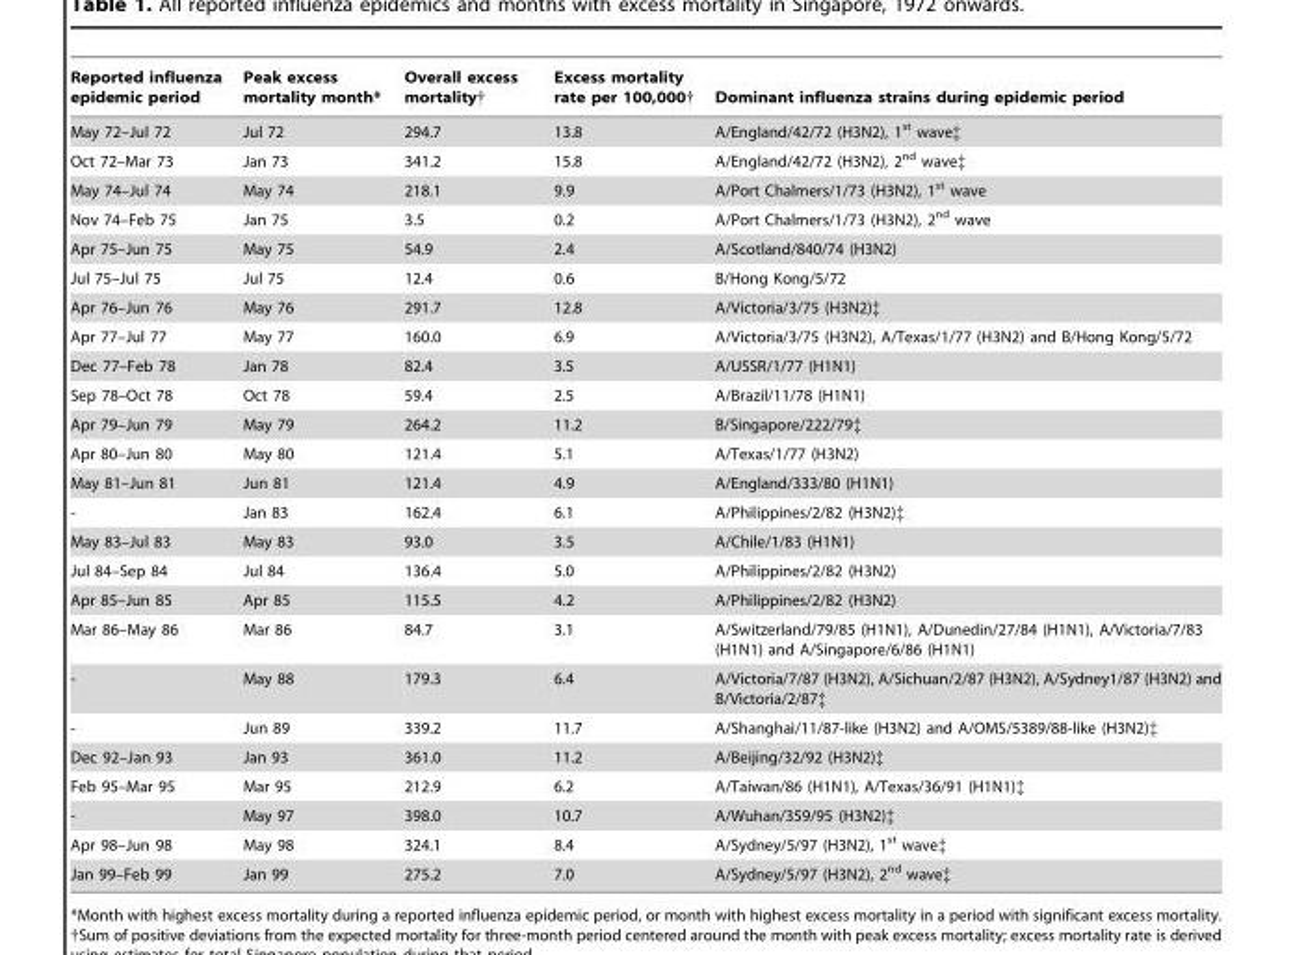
<table><thead><tr><td>Reported influenza epidemic period</td><td>Peak excess mortality month*</td><td>Overall excess mortality†</td><td>Excess mortality rate per 100,000†</td><td>Dominant influenza strains during epidemic period</td></tr></thead><tbody><tr><td>May 72–Jul 72</td><td>Jul 72</td><td>294.7</td><td>13.8</td><td>A/England/42/72 (H3N2), 1<sup>st</sup> wave‡</td></tr><tr><td>Oct 72–Mar 73</td><td>Jan 73</td><td>341.2</td><td>15.8</td><td>A/England/42/72 (H3N2), 2<sup>nd</sup> wave‡</td></tr><tr><td>May 74–Jul 74</td><td>May 74</td><td>218.1</td><td>9.9</td><td>A/Port Chalmers/1/73 (H3N2), 1<sup>st</sup> wave</td></tr><tr><td>Nov 74–Feb 75</td><td>Jan 75</td><td>3.5</td><td>0.2</td><td>A/Port Chalmers/1/73 (H3N2), 2<sup>nd</sup> wave</td></tr><tr><td>Apr 75–Jun 75</td><td>May 75</td><td>54.9</td><td>2.4</td><td>A/Scotland/840/74 (H3N2)</td></tr><tr><td>Jul 75–Jul 75</td><td>Jul 75</td><td>12.4</td><td>0.6</td><td>B/Hong Kong/5/72</td></tr><tr><td>Apr 76–Jun 76</td><td>May 76</td><td>291.7</td><td>12.8</td><td>A/Victoria/3/75 (H3N2)‡</td></tr><tr><td>Apr 77–Jul 77</td><td>May 77</td><td>160.0</td><td>6.9</td><td>A/Victoria/3/75 (H3N2), A/Texas/1/77 (H3N2) and B/Hong Kong/5/72</td></tr><tr><td>Dec 77–Feb 78</td><td>Jan 78</td><td>82.4</td><td>3.5</td><td>A/USSR/1/77 (H1N1)</td></tr><tr><td>Sep 78–Oct 78</td><td>Oct 78</td><td>59.4</td><td>2.5</td><td>A/Brazil/11/78 (H1N1)</td></tr><tr><td>Apr 79–Jun 79</td><td>May 79</td><td>264.2</td><td>11.2</td><td>B/Singapore/222/79‡</td></tr><tr><td>Apr 80–Jun 80</td><td>May 80</td><td>121.4</td><td>5.1</td><td>A/Texas/1/77 (H3N2)</td></tr><tr><td>May 81–Jun 81</td><td>Jun 81</td><td>121.4</td><td>4.9</td><td>A/England/333/80 (H1N1)</td></tr><tr><td>-</td><td>Jan 83</td><td>162.4</td><td>6.1</td><td>A/Philippines/2/82 (H3N2)‡</td></tr><tr><td>May 83–Jul 83</td><td>May 83</td><td>93.0</td><td>3.5</td><td>A/Chile/1/83 (H1N1)</td></tr><tr><td>Jul 84–Sep 84</td><td>Jul 84</td><td>136.4</td><td>5.0</td><td>A/Philippines/2/82 (H3N2)</td></tr><tr><td>Apr 85–Jun 85</td><td>Apr 85</td><td>115.5</td><td>4.2</td><td>A/Philippines/2/82 (H3N2)</td></tr><tr><td>Mar 86–May 86</td><td>Mar 86</td><td>84.7</td><td>3.1</td><td>A/Switzerland/79/85 (H1N1), A/Dunedin/27/84 (H1N1), A/Victoria/7/83 (H1N1) and A/Singapore/6/86 (H1N1)</td></tr><tr><td>-</td><td>May 88</td><td>179.3</td><td>6.4</td><td>A/Victoria/7/87 (H3N2), A/Sichuan/2/87 (H3N2), A/Sydney1/87 (H3N2) and B/Victoria/2/87‡</td></tr><tr><td>-</td><td>Jun 89</td><td>339.2</td><td>11.7</td><td>A/Shanghai/11/87-like (H3N2) and A/OMS/5389/88-like (H3N2)‡</td></tr><tr><td>Dec 92–Jan 93</td><td>Jan 93</td><td>361.0</td><td>11.2</td><td>A/Beijing/32/92 (H3N2)‡</td></tr><tr><td>Feb 95–Mar 95</td><td>Mar 95</td><td>212.9</td><td>6.2</td><td>A/Taiwan/86 (H1N1), A/Texas/36/91 (H1N1)‡</td></tr><tr><td>-</td><td>May 97</td><td>398.0</td><td>10.7</td><td>A/Wuhan/359/95 (H3N2)‡</td></tr><tr><td>Apr 98–Jun 98</td><td>May 98</td><td>324.1</td><td>8.4</td><td>A/Sydney/5/97 (H3N2), 1<sup>st</sup> wave‡</td></tr><tr><td>Jan 99–Feb 99</td><td>Jan 99</td><td>275.2</td><td>7.0</td><td>A/Sydney/5/97 (H3N2), 2<sup>nd</sup> wave‡</td></tr></tbody></table>